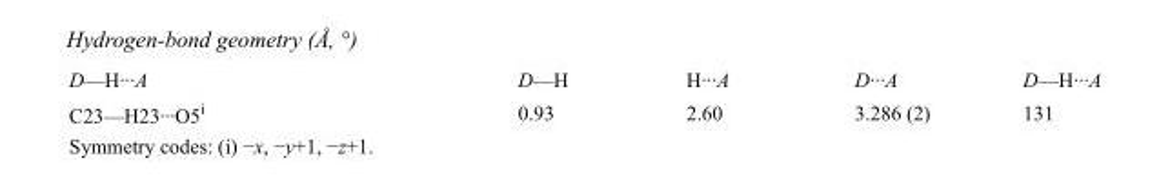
<table><tbody><tr><td>D—H···A</td><td>D—H</td><td>H···A</td><td>D···A</td><td>D—H···A</td></tr><tr><td>C23—H23···O5<sup>i</sup></td><td>0.93</td><td>2.60</td><td>3.286 (2)</td><td>131</td></tr></tbody></table>